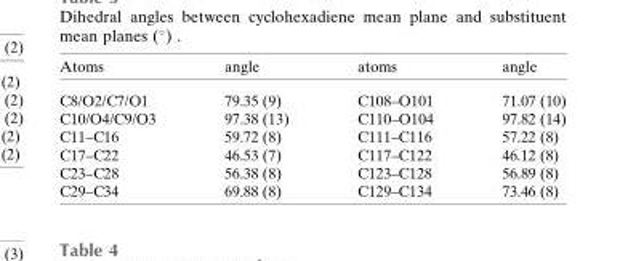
<table><thead><tr><td>Atoms</td><td>angle</td><td>atoms</td><td>angle</td></tr></thead><tbody><tr><td>C8/O2/C7/O1</td><td>79.35 (9)</td><td>C108–O101</td><td>71.07 (10)</td></tr><tr><td>C10/O4/C9/O3</td><td>97.38 (13)</td><td>C110–O104</td><td>97.82 (14)</td></tr><tr><td>C11–C16</td><td>59.72 (8)</td><td>C111–C116</td><td>57.22 (8)</td></tr><tr><td>C17–C22</td><td>46.53 (7)</td><td>C117–C122</td><td>46.12 (8)</td></tr><tr><td>C23–C28</td><td>56.38 (8)</td><td>C123–C128</td><td>56.89 (8)</td></tr><tr><td>C29–C34</td><td>69.88 (8)</td><td>C129–C134</td><td>73.46 (8)</td></tr></tbody></table>